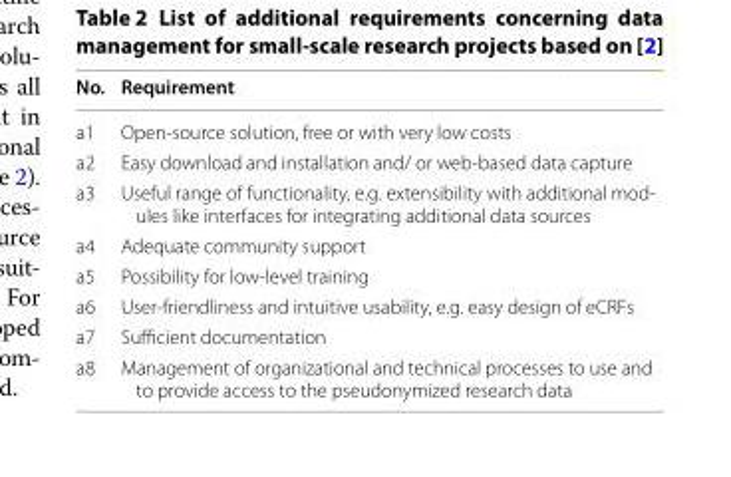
<table><thead><tr><td>No.</td><td>Requirement</td></tr></thead><tbody><tr><td>a1</td><td>Open-source solution, free or with very low costs</td></tr><tr><td>a2</td><td>Easy download and installation and/ or web-based data capture</td></tr><tr><td>a3</td><td>Useful range of functionality, e.g. extensibility with additional mod- ules like interfaces for integrating additional data sources</td></tr><tr><td>a4</td><td>Adequate community support</td></tr><tr><td>a5</td><td>Possibility for low-level training</td></tr><tr><td>a6</td><td>User-friendliness and intuitive usability, e.g. easy design of eCRFs</td></tr><tr><td>a7</td><td>Sufficient documentation</td></tr><tr><td>a8</td><td>Management of organizational and technical processes to use and to provide access to the pseudonymized research data</td></tr></tbody></table>